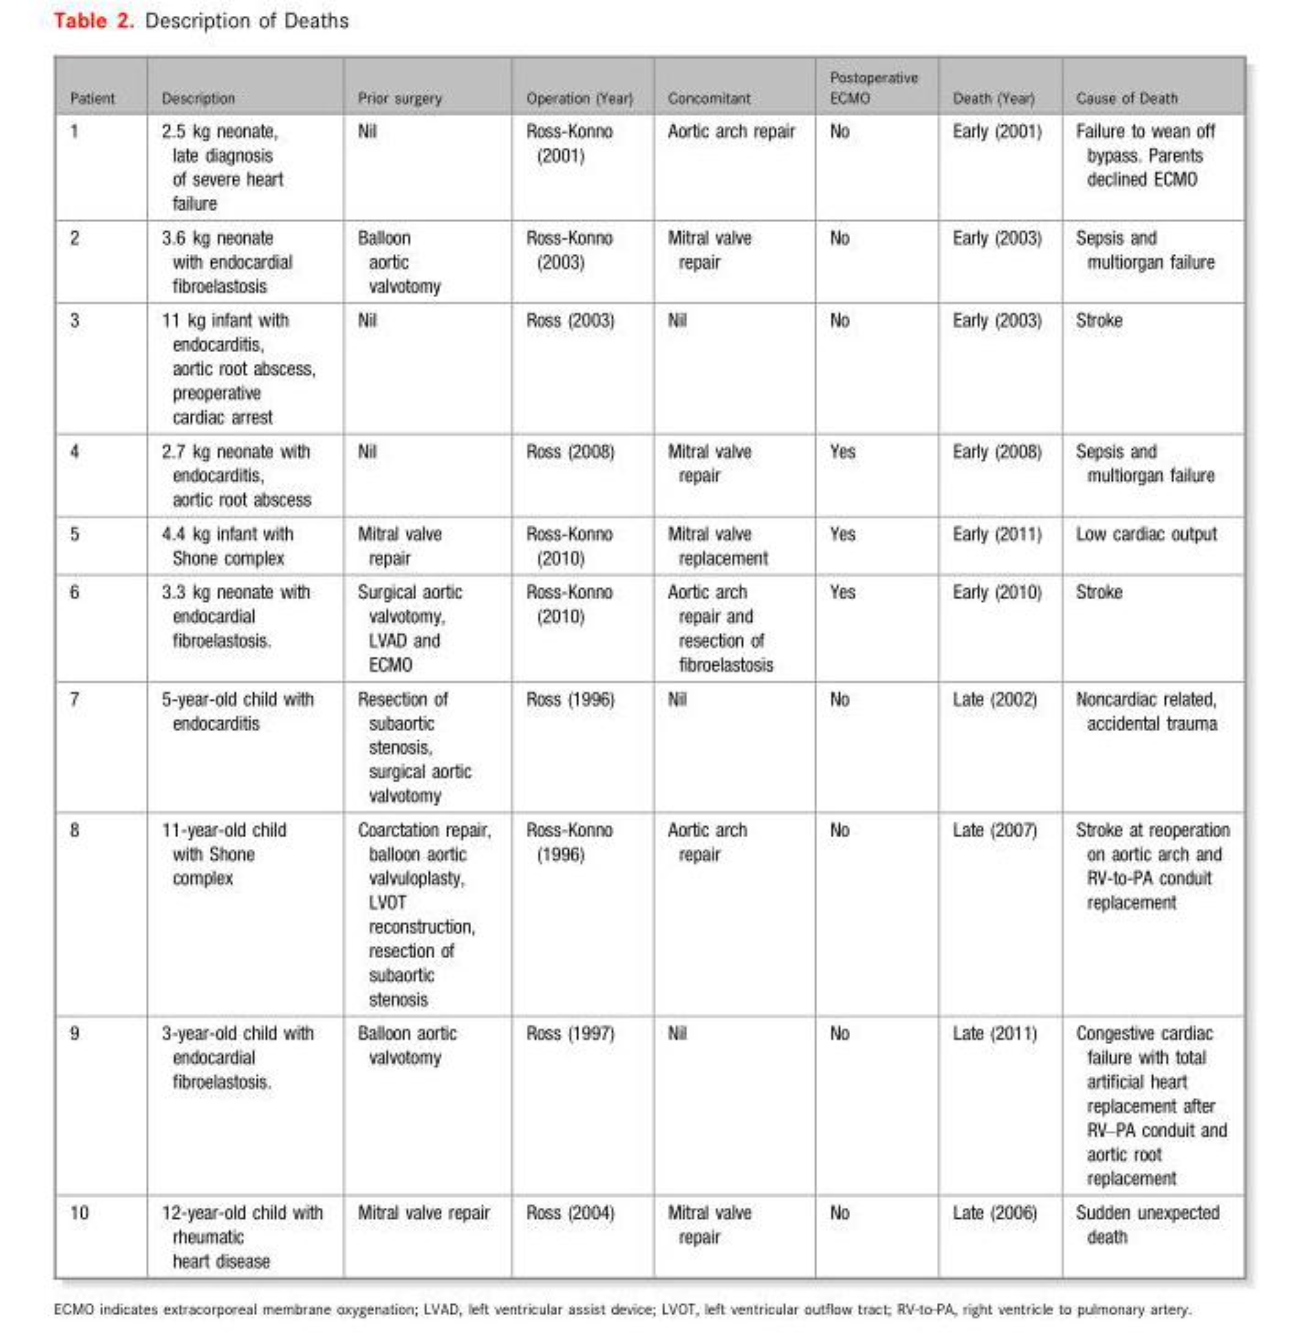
<table><thead><tr><td>Patient</td><td>Description</td><td>Prior surgery</td><td>Operation (Year)</td><td>Concomitant</td><td>Postoperative ECMO</td><td>Death (Year)</td><td>Cause of Death</td></tr></thead><tbody><tr><td>1</td><td>2.5 kg neonate, late diagnosis of severe heart failure</td><td>Nil</td><td>Ross-Konno (2001)</td><td>Aortic arch repair</td><td>No</td><td>Early (2001)</td><td>Failure to wean off bypass. Parents declined ECMO</td></tr><tr><td>2</td><td>3.6 kg neonate with endocardial fibroelastosis</td><td>Balloon aortic valvotomy</td><td>Ross-Konno (2003)</td><td>Mitral valve repair</td><td>No</td><td>Early (2003)</td><td>Sepsis and multiorgan failure</td></tr><tr><td>3</td><td>11 kg infant with endocarditis, aortic root abscess, preoperative cardiac arrest</td><td>Nil</td><td>Ross (2003)</td><td>Nil</td><td>No</td><td>Early (2003)</td><td>Stroke</td></tr><tr><td>4</td><td>2.7 kg neonate with endocarditis, aortic root abscess</td><td>Nil</td><td>Ross (2008)</td><td>Mitral valve repair</td><td>Yes</td><td>Early (2008)</td><td>Sepsis and multiorgan failure</td></tr><tr><td>5</td><td>4.4 kg infant with Shone complex</td><td>Mitral valve repair</td><td>Ross-Konno (2010)</td><td>Mitral valve replacement</td><td>Yes</td><td>Early (2011)</td><td>Low cardiac output</td></tr><tr><td>6</td><td>3.3 kg neonate with endocardial fibroelastosis.</td><td>Surgical aortic valvotomy, LVAD and ECMO</td><td>Ross-Konno (2010)</td><td>Aortic arch repair and resection of fibroelastosis</td><td>Yes</td><td>Early (2010)</td><td>Stroke</td></tr><tr><td>7</td><td>5-year-old child with endocarditis</td><td>Resection of subaortic stenosis, surgical aortic valvotomy</td><td>Ross (1996)</td><td>Nil</td><td>No</td><td>Late (2002)</td><td>Noncardiac related, accidental trauma</td></tr><tr><td>8</td><td>11-year-old child with Shone complex</td><td>Coarctation repair, balloon aortic valvuloplasty, LVOT reconstruction, resection of subaortic stenosis</td><td>Ross-Konno (1996)</td><td>Aortic arch repair</td><td>No</td><td>Late (2007)</td><td>Stroke at reoperation on aortic arch and RV-to-PA conduit replacement</td></tr><tr><td>9</td><td>3-year-old child with endocardial fibroelastosis.</td><td>Balloon aortic valvotomy</td><td>Ross (1997)</td><td>Nil</td><td>No</td><td>Late (2011)</td><td>Congestive cardiac failure with total artificial heart replacement after RV–PA conduit and aortic root replacement</td></tr><tr><td>10</td><td>12-year-old child with rheumatic heart disease</td><td>Mitral valve repair</td><td>Ross (2004)</td><td>Mitral valve repair</td><td>No</td><td>Late (2006)</td><td>Sudden unexpected death</td></tr></tbody></table>